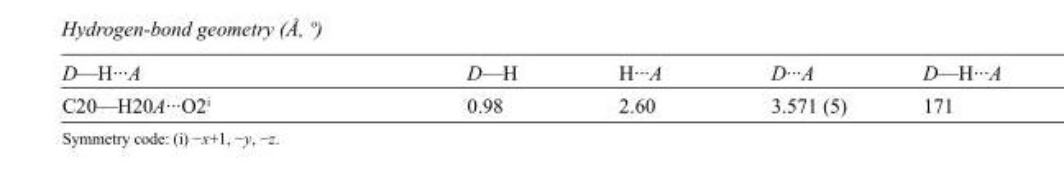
<table><tbody><tr><td>D—H···A</td><td>D—H</td><td>H···A</td><td>D···A</td><td>D—H···A</td></tr><tr><td>C20—H20A···O2<sup>i</sup></td><td>0.98</td><td>2.60</td><td>3.571 (5)</td><td>171</td></tr></tbody></table>